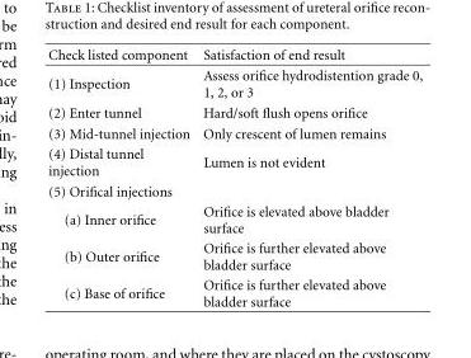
<table><thead><tr><td>Check listed component</td><td>Satisfaction of end result</td></tr></thead><tbody><tr><td>(1) Inspection</td><td>Assess orifice hydrodistention grade 0, 1, 2, or 3</td></tr><tr><td>(2) Enter tunnel</td><td>Hard/soft flush opens orifice</td></tr><tr><td>(3) Mid-tunnel injection</td><td>Only crescent of lumen remains</td></tr><tr><td>(4) Distal tunnel injection</td><td>Lumen is not evident</td></tr><tr><td colspan="2">(5) Orifical injections</td></tr><tr><td>(a) Inner orifice</td><td>Orifice is elevated above bladder surface</td></tr><tr><td>(b) Outer orifice</td><td>Orifice is further elevated above bladder surface</td></tr><tr><td>(c) Base of orifice</td><td>Orifice is further elevated above bladder surface</td></tr></tbody></table>